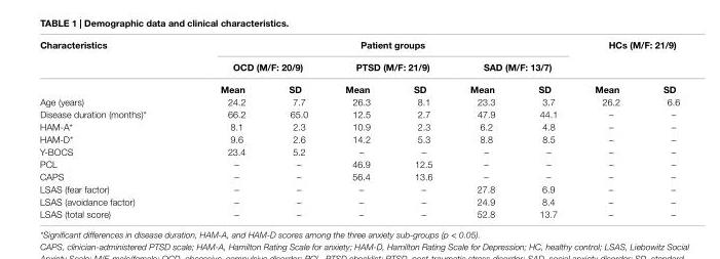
<table><thead><tr><td rowspan="3">characteristics</td><td colspan="6">Patient groups</td><td colspan="2">hcs (M/F: 21/9)</td></tr><tr><td colspan="2">OcD (M/F: 20/9)</td><td colspan="2">PTsD (M/F: 21/9)</td><td colspan="2">saD (M/F: 13/7)</td><td rowspan="2">Mean</td><td rowspan="2">sD</td></tr><tr><td>Mean</td><td>sD</td><td>Mean</td><td>sD</td><td>Mean</td><td>sD</td></tr></thead><tbody><tr><td>Age (years)</td><td>24.2</td><td>7.7</td><td>26.3</td><td>8.1</td><td>23.3</td><td>3.7</td><td>26.2</td><td>6.6</td></tr><tr><td>Disease duration (months)*</td><td>66.2</td><td>65.0</td><td>12.5</td><td>2.7</td><td>47.9</td><td>44.1</td><td>–</td><td>–</td></tr><tr><td>HAM-A*</td><td>8.1</td><td>2.3</td><td>10.9</td><td>2.3</td><td>6.2</td><td>4.8</td><td>–</td><td>–</td></tr><tr><td>HAM-D*</td><td>9.6</td><td>2.6</td><td>14.2</td><td>5.3</td><td>8.8</td><td>8.5</td><td>–</td><td>–</td></tr><tr><td>Y-BOCS</td><td>23.4</td><td>5.2</td><td>–</td><td>–</td><td>–</td><td>–</td><td>–</td><td>–</td></tr><tr><td>PCL</td><td>–</td><td>–</td><td>46.9</td><td>12.5</td><td>–</td><td>–</td><td>–</td><td>–</td></tr><tr><td>CAPS</td><td>–</td><td>–</td><td>56.4</td><td>13.6</td><td>–</td><td>–</td><td>–</td><td>–</td></tr><tr><td>LSAS (fear factor)</td><td>–</td><td>–</td><td>–</td><td>–</td><td>27.8</td><td>6.9</td><td>–</td><td>–</td></tr><tr><td>LSAS (avoidance factor)</td><td>–</td><td>–</td><td>–</td><td>–</td><td>24.9</td><td>8.4</td><td>–</td><td>–</td></tr><tr><td>LSAS (total score)</td><td>–</td><td>–</td><td>–</td><td>–</td><td>52.8</td><td>13.7</td><td>–</td><td>–</td></tr></tbody></table>